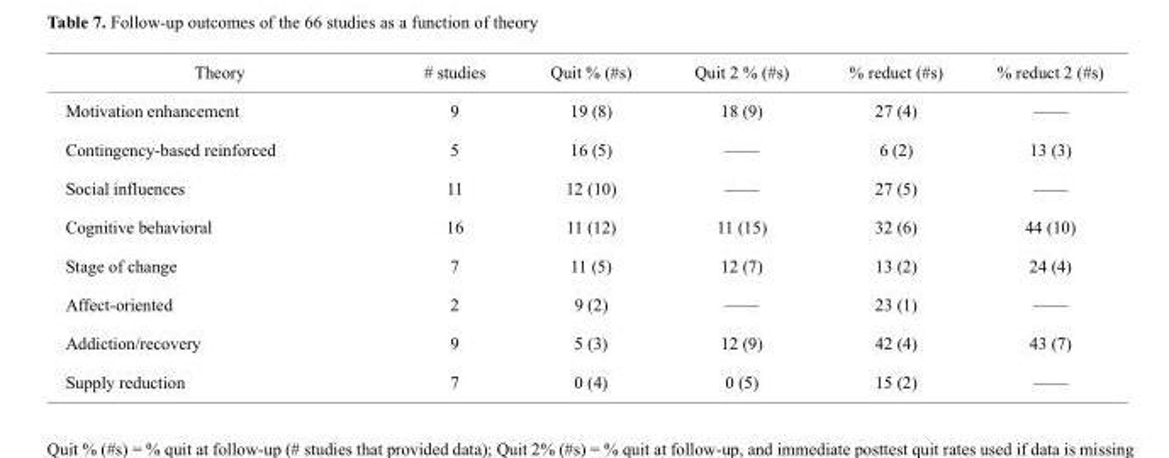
<table><thead><tr><td>Theory</td><td># studies</td><td>Quit % (#s)</td><td>Quit 2 % (#s)</td><td>% reduct (#s)</td><td>% reduct 2 (#s)</td></tr></thead><tbody><tr><td>Motivation enhancement</td><td>9</td><td>19 (8)</td><td>18 (9)</td><td>27 (4)</td><td>——</td></tr><tr><td>Contingency-based reinforced</td><td>5</td><td>16 (5)</td><td>——</td><td>6 (2)</td><td>13 (3)</td></tr><tr><td>Social influences</td><td>11</td><td>12 (10)</td><td>——</td><td>27 (5)</td><td>——</td></tr><tr><td>Cognitive behavioral</td><td>16</td><td>11 (12)</td><td>11 (15)</td><td>32 (6)</td><td>44 (10)</td></tr><tr><td>Stage of change</td><td>7</td><td>11 (5)</td><td>12 (7)</td><td>13 (2)</td><td>24 (4)</td></tr><tr><td>Affect-oriented</td><td>2</td><td>9 (2)</td><td>——</td><td>23 (1)</td><td>——</td></tr><tr><td>Addiction/recovery</td><td>9</td><td>5 (3)</td><td>12 (9)</td><td>42 (4)</td><td>43 (7)</td></tr><tr><td>Supply reduction</td><td>7</td><td>0 (4)</td><td>0 (5)</td><td>15 (2)</td><td>——</td></tr></tbody></table>